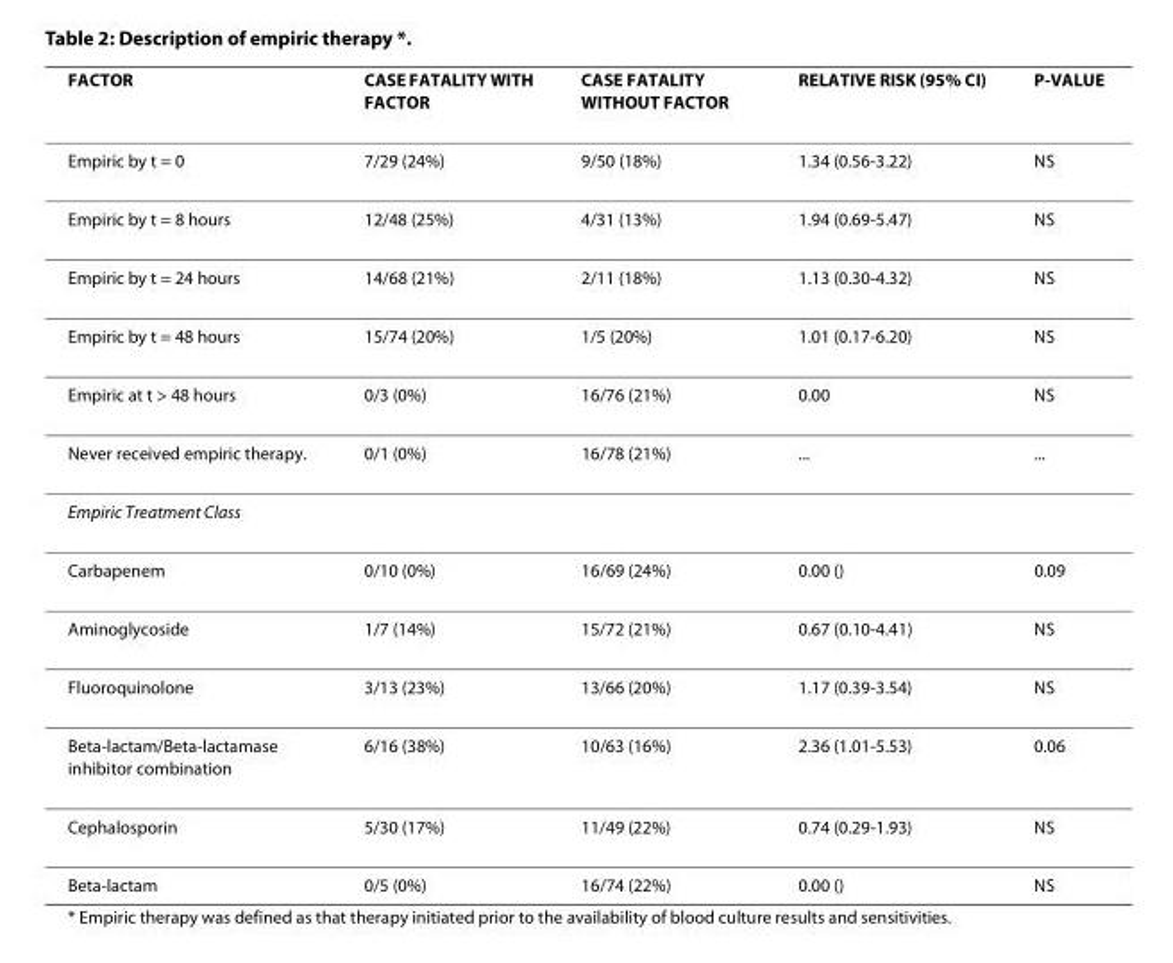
<table><thead><tr><td>FACTOR</td><td>CASE FATALITY WITH FACTOR</td><td>CASE FATALITY WITHOUT FACTOR</td><td>RELATIVE RISK (95% CI)</td><td>P-VALUE</td></tr></thead><tbody><tr><td>Empiric by t = 0</td><td>7/29 (24%)</td><td>9/50 (18%)</td><td>1.34 (0.56-3.22)</td><td>NS</td></tr><tr><td>Empiric by t = 8 hours</td><td>12/48 (25%)</td><td>4/31 (13%)</td><td>1.94 (0.69-5.47)</td><td>NS</td></tr><tr><td>Empiric by t = 24 hours</td><td>14/68 (21%)</td><td>2/11 (18%)</td><td>1.13 (0.30-4.32)</td><td>NS</td></tr><tr><td>Empiric by t = 48 hours</td><td>15/74 (20%)</td><td>1/5 (20%)</td><td>1.01 (0.17-6.20)</td><td>NS</td></tr><tr><td>Empiric at t &gt; 48 hours</td><td>0/3 (0%)</td><td>16/76 (21%)</td><td>0.00</td><td>NS</td></tr><tr><td>Never received empiric therapy.</td><td>0/1 (0%)</td><td>16/78 (21%)</td><td>...</td><td>...</td></tr><tr><td colspan="5">Empiric Treatment Class</td></tr><tr><td>Carbapenem</td><td>0/10 (0%)</td><td>16/69 (24%)</td><td>0.00 ()</td><td>0.09</td></tr><tr><td>Aminoglycoside</td><td>1/7 (14%)</td><td>15/72 (21%)</td><td>0.67 (0.10-4.41)</td><td>NS</td></tr><tr><td>Fluoroquinolone</td><td>3/13 (23%)</td><td>13/66 (20%)</td><td>1.17 (0.39-3.54)</td><td>NS</td></tr><tr><td>Beta-lactam/Beta-lactamase inhibitor combination</td><td>6/16 (38%)</td><td>10/63 (16%)</td><td>2.36 (1.01-5.53)</td><td>0.06</td></tr><tr><td>Cephalosporin</td><td>5/30 (17%)</td><td>11/49 (22%)</td><td>0.74 (0.29-1.93)</td><td>NS</td></tr><tr><td>Beta-lactam</td><td>0/5 (0%)</td><td>16/74 (22%)</td><td>0.00 ()</td><td>NS</td></tr></tbody></table>